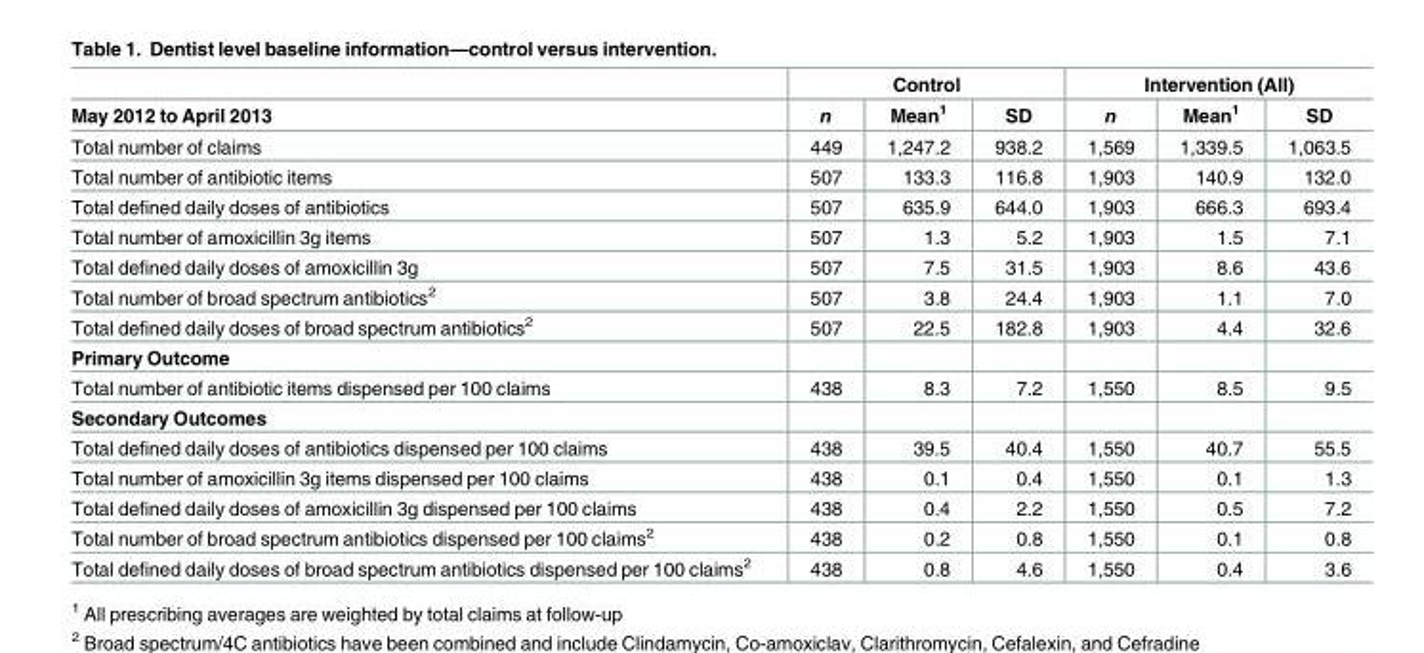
<table><thead><tr><td rowspan="2">May 2012 to April 2013</td><td colspan="3">Control</td><td colspan="3">Intervention (All)</td></tr><tr><td>n</td><td>Mean<sup>1</sup></td><td>SD</td><td>n</td><td>Mean<sup>1</sup></td><td>SD</td></tr></thead><tbody><tr><td>Total number of claims</td><td>449</td><td>1,247.2</td><td>938.2</td><td>1,569</td><td>1,339.5</td><td>1,063.5</td></tr><tr><td>Total number of antibiotic items</td><td>507</td><td>133.3</td><td>116.8</td><td>1,903</td><td>140.9</td><td>132.0</td></tr><tr><td>Total defined daily doses of antibiotics</td><td>507</td><td>635.9</td><td>644.0</td><td>1,903</td><td>666.3</td><td>693.4</td></tr><tr><td>Total number of amoxicillin 3g items</td><td>507</td><td>1.3</td><td>5.2</td><td>1,903</td><td>1.5</td><td>7.1</td></tr><tr><td>Total defined daily doses of amoxicillin 3g</td><td>507</td><td>7.5</td><td>31.5</td><td>1,903</td><td>8.6</td><td>43.6</td></tr><tr><td>Total number of broad spectrum antibiotics<sup>2</sup></td><td>507</td><td>3.8</td><td>24.4</td><td>1,903</td><td>1.1</td><td>7.0</td></tr><tr><td>Total defined daily doses of broad spectrum antibiotics<sup>2</sup></td><td>507</td><td>22.5</td><td>182.8</td><td>1,903</td><td>4.4</td><td>32.6</td></tr><tr><td colspan="7">Primary Outcome</td></tr><tr><td>Total number of antibiotic items dispensed per 100 claims</td><td>438</td><td>8.3</td><td>7.2</td><td>1,550</td><td>8.5</td><td>9.5</td></tr><tr><td colspan="7">Secondary Outcomes</td></tr><tr><td>Total defined daily doses of antibiotics dispensed per 100 claims</td><td>438</td><td>39.5</td><td>40.4</td><td>1,550</td><td>40.7</td><td>55.5</td></tr><tr><td>Total number of amoxicillin 3g items dispensed per 100 claims</td><td>438</td><td>0.1</td><td>0.4</td><td>1,550</td><td>0.1</td><td>1.3</td></tr><tr><td>Total defined daily doses of amoxicillin 3g dispensed per 100 claims</td><td>438</td><td>0.4</td><td>2.2</td><td>1,550</td><td>0.5</td><td>7.2</td></tr><tr><td>Total number of broad spectrum antibiotics dispensed per 100 claims<sup>2</sup></td><td>438</td><td>0.2</td><td>0.8</td><td>1,550</td><td>0.1</td><td>0.8</td></tr><tr><td>Total defined daily doses of broad spectrum antibiotics dispensed per 100 claims<sup>2</sup></td><td>438</td><td>0.8</td><td>4.6</td><td>1,550</td><td>0.4</td><td>3.6</td></tr></tbody></table>